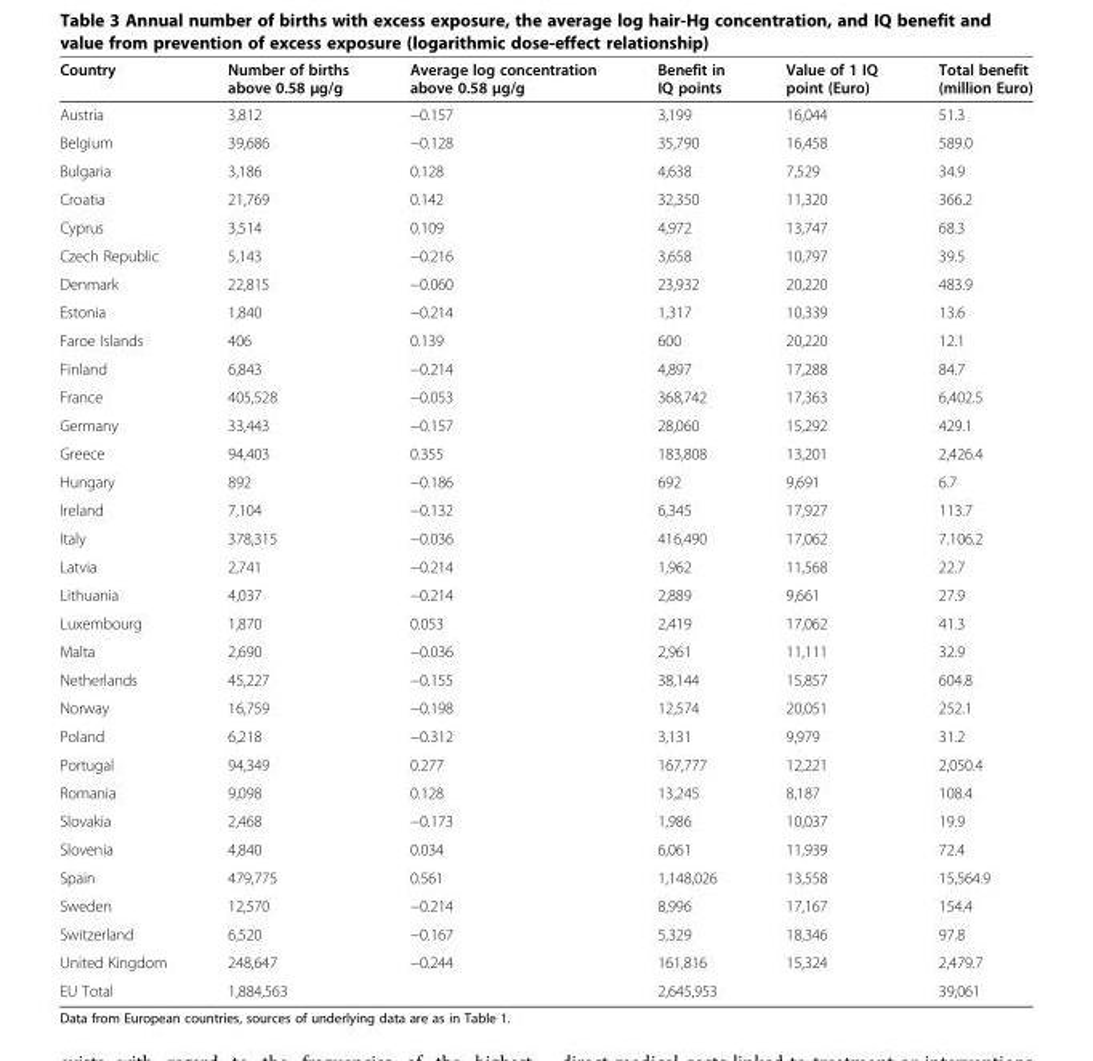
<table><thead><tr><td>Country</td><td>Number of births above 0.58 μg/g</td><td>Average log concentration above 0.58 μg/g</td><td>Benefit in IQ points</td><td>Value of 1 IQ point (Euro)</td><td>Total benefit (million Euro)</td></tr></thead><tbody><tr><td>Austria</td><td>3,812</td><td>−0.157</td><td>3,199</td><td>16,044</td><td>51.3</td></tr><tr><td>Belgium</td><td>39,686</td><td>−0.128</td><td>35,790</td><td>16,458</td><td>589.0</td></tr><tr><td>Bulgaria</td><td>3,186</td><td>0.128</td><td>4,638</td><td>7,529</td><td>34.9</td></tr><tr><td>Croatia</td><td>21,769</td><td>0.142</td><td>32,350</td><td>11,320</td><td>366.2</td></tr><tr><td>Cyprus</td><td>3,514</td><td>0.109</td><td>4,972</td><td>13,747</td><td>68.3</td></tr><tr><td>Czech Republic</td><td>5,143</td><td>−0.216</td><td>3,658</td><td>10,797</td><td>39.5</td></tr><tr><td>Denmark</td><td>22,815</td><td>−0.060</td><td>23,932</td><td>20,220</td><td>483.9</td></tr><tr><td>Estonia</td><td>1,840</td><td>−0.214</td><td>1,317</td><td>10,339</td><td>13.6</td></tr><tr><td>Faroe Islands</td><td>406</td><td>0.139</td><td>600</td><td>20,220</td><td>12.1</td></tr><tr><td>Finland</td><td>6,843</td><td>−0.214</td><td>4,897</td><td>17,288</td><td>84.7</td></tr><tr><td>France</td><td>405,528</td><td>−0.053</td><td>368,742</td><td>17,363</td><td>6,402.5</td></tr><tr><td>Germany</td><td>33,443</td><td>−0.157</td><td>28,060</td><td>15,292</td><td>429.1</td></tr><tr><td>Greece</td><td>94,403</td><td>0.355</td><td>183,808</td><td>13,201</td><td>2,426.4</td></tr><tr><td>Hungary</td><td>892</td><td>−0.186</td><td>692</td><td>9,691</td><td>6.7</td></tr><tr><td>Ireland</td><td>7,104</td><td>−0.132</td><td>6,345</td><td>17,927</td><td>113.7</td></tr><tr><td>Italy</td><td>378,315</td><td>−0.036</td><td>416,490</td><td>17,062</td><td>7.106.2</td></tr><tr><td>Latvia</td><td>2,741</td><td>−0.214</td><td>1,962</td><td>11,568</td><td>22.7</td></tr><tr><td>Lithuania</td><td>4,037</td><td>−0.214</td><td>2,889</td><td>9,661</td><td>27.9</td></tr><tr><td>Luxembourg</td><td>1,870</td><td>0.053</td><td>2,419</td><td>17,062</td><td>41.3</td></tr><tr><td>Malta</td><td>2,690</td><td>−0.036</td><td>2,961</td><td>11,111</td><td>32.9</td></tr><tr><td>Netherlands</td><td>45,227</td><td>−0.155</td><td>38,144</td><td>15,857</td><td>604.8</td></tr><tr><td>Norway</td><td>16,759</td><td>−0.198</td><td>12,574</td><td>20,051</td><td>252.1</td></tr><tr><td>Poland</td><td>6,218</td><td>−0.312</td><td>3,131</td><td>9,979</td><td>31.2</td></tr><tr><td>Portugal</td><td>94,349</td><td>0.277</td><td>167,777</td><td>12,221</td><td>2,050.4</td></tr><tr><td>Romania</td><td>9,098</td><td>0.128</td><td>13,245</td><td>8,187</td><td>108.4</td></tr><tr><td>Slovakia</td><td>2,468</td><td>−0.173</td><td>1,986</td><td>10,037</td><td>19.9</td></tr><tr><td>Slovenia</td><td>4,840</td><td>0.034</td><td>6,061</td><td>11,939</td><td>72.4</td></tr><tr><td>Spain</td><td>479,775</td><td>0.561</td><td>1,148,026</td><td>13,558</td><td>15,564.9</td></tr><tr><td>Sweden</td><td>12,570</td><td>−0.214</td><td>8,996</td><td>17,167</td><td>154.4</td></tr><tr><td>Switzerland</td><td>6,520</td><td>−0.167</td><td>5,329</td><td>18,346</td><td>97.8</td></tr><tr><td>United Kingdom</td><td>248,647</td><td>−0.244</td><td>161,816</td><td>15,324</td><td>2,479.7</td></tr><tr><td>EU Total</td><td>1,884,563</td><td></td><td>2,645,953</td><td></td><td>39,061</td></tr></tbody></table>